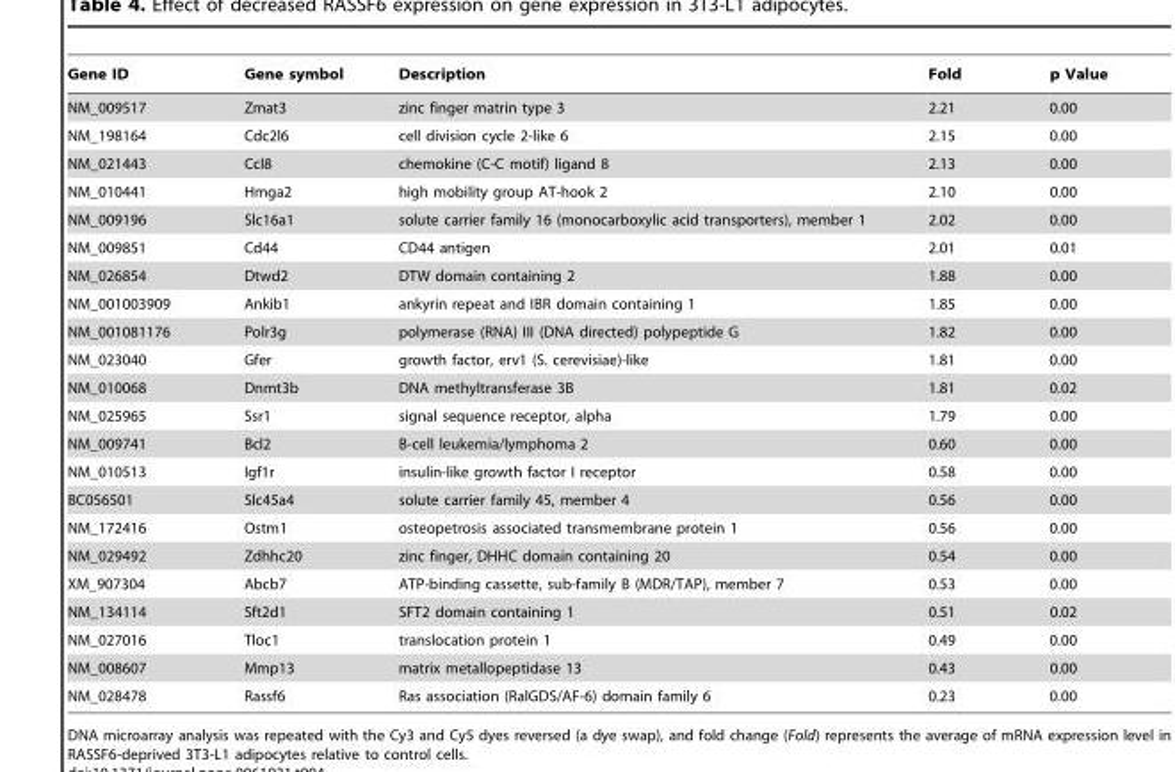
<table><thead><tr><td>Gene ID</td><td>Gene symbol</td><td>Description</td><td>Fold</td><td>p Value</td></tr></thead><tbody><tr><td>NM_009517</td><td>Zmat3</td><td>zinc finger matrin type 3</td><td>2.21</td><td>0.00</td></tr><tr><td>NM_198164</td><td>Cdc2l6</td><td>cell division cycle 2-like 6</td><td>2.15</td><td>0.00</td></tr><tr><td>NM_021443</td><td>Ccl8</td><td>chemokine (C-C motif) ligand 8</td><td>2.13</td><td>0.00</td></tr><tr><td>NM_010441</td><td>Hmga2</td><td>high mobility group AT-hook 2</td><td>2.10</td><td>0.00</td></tr><tr><td>NM_009196</td><td>Slc16a1</td><td>solute carrier family 16 (monocarboxylic acid transporters), member 1</td><td>2.02</td><td>0.00</td></tr><tr><td>NM_009851</td><td>Cd44</td><td>CD44 antigen</td><td>2.01</td><td>0.01</td></tr><tr><td>NM_026854</td><td>Dtwd2</td><td>DTW domain containing 2</td><td>1.88</td><td>0.00</td></tr><tr><td>NM_001003909</td><td>Ankib1</td><td>ankyrin repeat and IBR domain containing 1</td><td>1.85</td><td>0.00</td></tr><tr><td>NM_001081176</td><td>Polr3g</td><td>polymerase (RNA) III (DNA directed) polypeptide G</td><td>1.82</td><td>0.00</td></tr><tr><td>NM_023040</td><td>Gfer</td><td>growth factor, erv1 (S. cerevisiae)-like</td><td>1.81</td><td>0.00</td></tr><tr><td>NM_010068</td><td>Dnmt3b</td><td>DNA methyltransferase 3B</td><td>1.81</td><td>0.02</td></tr><tr><td>NM_025965</td><td>Ssr1</td><td>signal sequence receptor, alpha</td><td>1.79</td><td>0.00</td></tr><tr><td>NM_009741</td><td>Bcl2</td><td>B-cell leukemia/lymphoma 2</td><td>0.60</td><td>0.00</td></tr><tr><td>NM_010513</td><td>Igf1r</td><td>insulin-like growth factor I receptor</td><td>0.58</td><td>0.00</td></tr><tr><td>BC056501</td><td>Slc45a4</td><td>solute carrier family 45, member 4</td><td>0.56</td><td>0.00</td></tr><tr><td>NM_172416</td><td>Ostm1</td><td>osteopetrosis associated transmembrane protein 1</td><td>0.56</td><td>0.00</td></tr><tr><td>NM_029492</td><td>Zdhhc20</td><td>zinc finger, DHHC domain containing 20</td><td>0.54</td><td>0.00</td></tr><tr><td>XM_907304</td><td>Abcb7</td><td>ATP-binding cassette, sub-family B (MDR/TAP), member 7</td><td>0.53</td><td>0.00</td></tr><tr><td>NM_134114</td><td>Sft2d1</td><td>SFT2 domain containing 1</td><td>0.51</td><td>0.02</td></tr><tr><td>NM_027016</td><td>Tloc1</td><td>translocation protein 1</td><td>0.49</td><td>0.00</td></tr><tr><td>NM_008607</td><td>Mmp13</td><td>matrix metallopeptidase 13</td><td>0.43</td><td>0.00</td></tr><tr><td>NM_028478</td><td>Rassf6</td><td>Ras association (RalGDS/AF-6) domain family 6</td><td>0.23</td><td>0.00</td></tr></tbody></table>